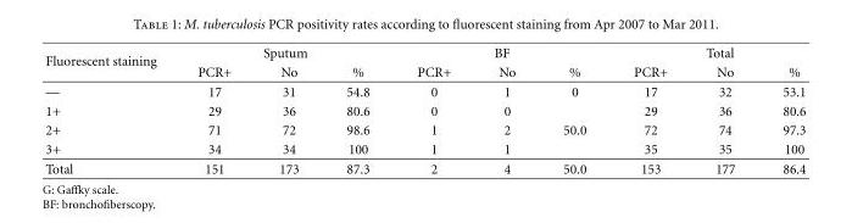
<table><thead><tr><td rowspan="2">Fluorescent staining</td><td colspan="3">Sputum</td><td colspan="3">BF</td><td colspan="3">Total</td></tr><tr><td>PCR+</td><td>No</td><td>%</td><td>PCR+</td><td>No</td><td>%</td><td>PCR+</td><td>No</td><td>%</td></tr></thead><tbody><tr><td>—</td><td>17</td><td>31</td><td>54.8</td><td>0</td><td>1</td><td>0</td><td>17</td><td>32</td><td>53.1</td></tr><tr><td>1+</td><td>29</td><td>36</td><td>80.6</td><td>0</td><td>0</td><td></td><td>29</td><td>36</td><td>80.6</td></tr><tr><td>2+</td><td>71</td><td>72</td><td>98.6</td><td>1</td><td>2</td><td>50.0</td><td>72</td><td>74</td><td>97.3</td></tr><tr><td>3+</td><td>34</td><td>34</td><td>100</td><td>1</td><td>1</td><td></td><td>35</td><td>35</td><td>100</td></tr><tr><td>Total</td><td>151</td><td>173</td><td>87.3</td><td>2</td><td>4</td><td>50.0</td><td>153</td><td>177</td><td>86.4</td></tr></tbody></table>